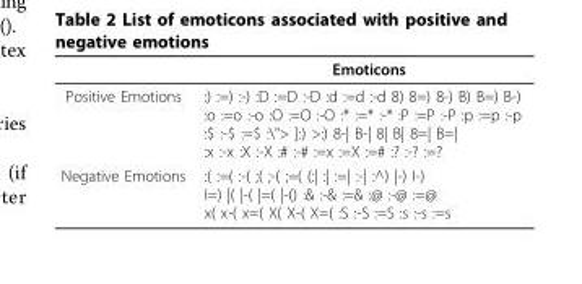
<table><thead><tr><td></td><td>Emoticons</td></tr></thead><tbody><tr><td>Positive Emotions</td><td>:) :=) :-) :D :=D :-D :d :=d :-d 8) 8=) 8-) B) B=) B-) :o :=o :-o :O :=O :-O :* :=* :-* :P :=P :-P :p :=p :-p :$ :-$ :=$ :\&quot;&gt; ]:) &gt;:) 8-| B-| 8| B| 8=| B=| :x :-x :X :-X :# :-# :=x :=X :=# :? :-? :=?</td></tr><tr><td>Negative Emotions</td><td>:( :=( :-( ;( ;-( ;=( (:| :| :=| :-| :^) |-) I-) I=) |( |-( |=( |-() :&amp; :-&amp; :=&amp; :@ :-@ :=@ x( x-( x=( X( X-( X=( :S :-S :=S :s :-s :=s</td></tr></tbody></table>